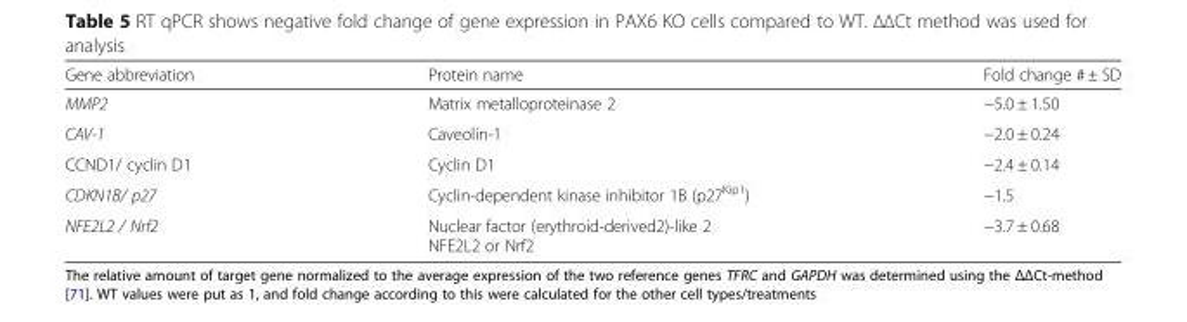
<table><thead><tr><td>Gene abbreviation</td><td>Protein name</td><td>Fold change # ± SD</td></tr></thead><tbody><tr><td>MMP2</td><td>Matrix metalloproteinase 2</td><td>−5.0 ± 1.50</td></tr><tr><td>CAV-1</td><td>Caveolin-1</td><td>−2.0 ± 0.24</td></tr><tr><td>CCND1/ cyclin D1</td><td>Cyclin D1</td><td>−2.4 ± 0.14</td></tr><tr><td>CDKN1B/ p27</td><td>Cyclin-dependent kinase inhibitor 1B (p27<sup>Kip1</sup>)</td><td>−1.5</td></tr><tr><td>NFE2L2 / Nrf2</td><td>Nuclear factor (erythroid-derived2)-like 2 NFE2L2 or Nrf2</td><td>−3.7 ± 0.68</td></tr></tbody></table>